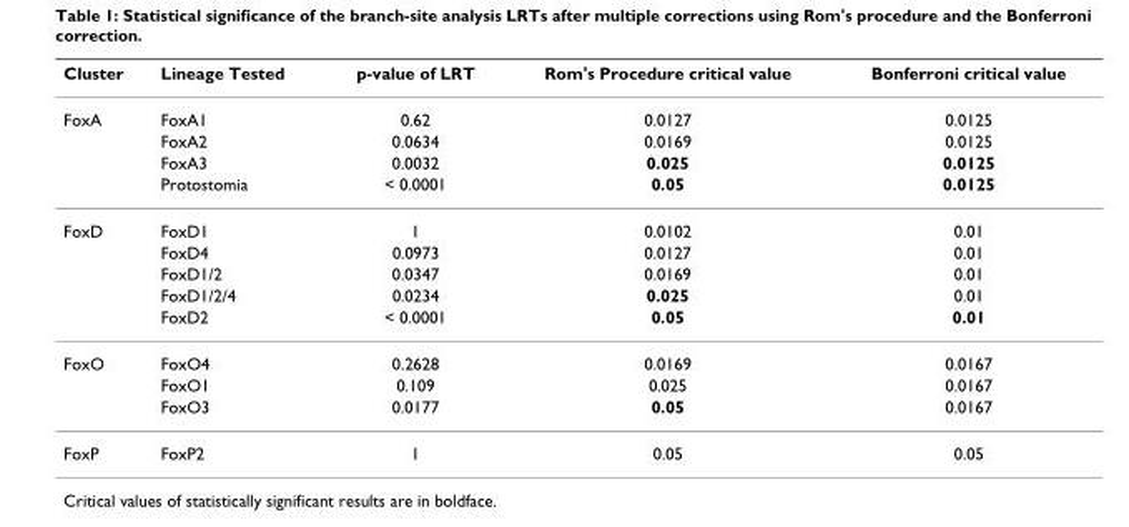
<table><thead><tr><td>Cluster</td><td>Lineage Tested</td><td>p-value of LRT</td><td>Rom&#x27;s Procedure critical value</td><td>Bonferroni critical value</td></tr></thead><tbody><tr><td rowspan="4">FoxA</td><td>FoxA1</td><td>0.62</td><td>0.0127</td><td>0.0125</td></tr><tr><td>FoxA2</td><td>0.0634</td><td>0.0169</td><td>0.0125</td></tr><tr><td>FoxA3</td><td>0.0032</td><td>0.025</td><td>0.0125</td></tr><tr><td>Protostomia</td><td>&lt; 0.0001</td><td>0.05</td><td>0.0125</td></tr><tr><td rowspan="5">FoxD</td><td>FoxD1</td><td>1</td><td>0.0102</td><td>0.01</td></tr><tr><td>FoxD4</td><td>0.0973</td><td>0.0127</td><td>0.01</td></tr><tr><td>FoxD1/2</td><td>0.0347</td><td>0.0169</td><td>0.01</td></tr><tr><td>FoxD1/2/4</td><td>0.0234</td><td>0.025</td><td>0.01</td></tr><tr><td>FoxD2</td><td>&lt; 0.0001</td><td>0.05</td><td>0.01</td></tr><tr><td rowspan="3">FoxO</td><td>FoxO4</td><td>0.2628</td><td>0.0169</td><td>0.0167</td></tr><tr><td>FoxO1</td><td>0.109</td><td>0.025</td><td>0.0167</td></tr><tr><td>FoxO3</td><td>0.0177</td><td>0.05</td><td>0.0167</td></tr><tr><td>FoxP</td><td>FoxP2</td><td>1</td><td>0.05</td><td>0.05</td></tr></tbody></table>